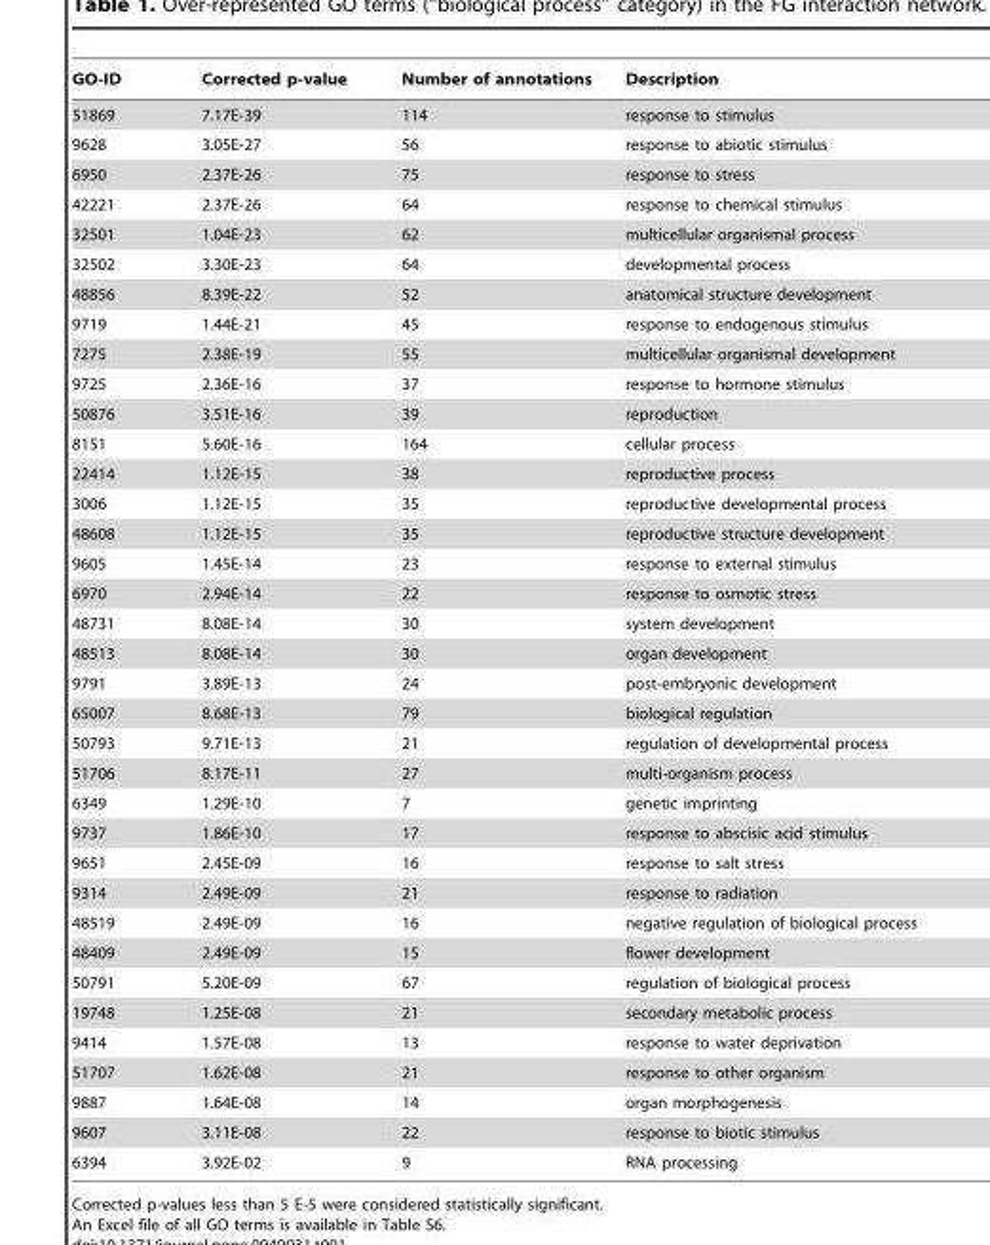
<table><thead><tr><td>GO-ID</td><td>Corrected p-value</td><td>Number of annotations</td><td>Description</td></tr></thead><tbody><tr><td>51869</td><td>7.17E-39</td><td>114</td><td>response to stimulus</td></tr><tr><td>9628</td><td>3.05E-27</td><td>56</td><td>response to abiotic stimulus</td></tr><tr><td>6950</td><td>2.37E-26</td><td>75</td><td>response to stress</td></tr><tr><td>42221</td><td>2.37E-26</td><td>64</td><td>response to chemical stimulus</td></tr><tr><td>32501</td><td>1.04E-23</td><td>62</td><td>multicellular organismal process</td></tr><tr><td>32502</td><td>3.30E-23</td><td>64</td><td>developmental process</td></tr><tr><td>48856</td><td>8.39E-22</td><td>52</td><td>anatomical structure development</td></tr><tr><td>9719</td><td>1.44E-21</td><td>45</td><td>response to endogenous stimulus</td></tr><tr><td>7275</td><td>2.38E-19</td><td>55</td><td>multicellular organismal development</td></tr><tr><td>9725</td><td>2.36E-16</td><td>37</td><td>response to hormone stimulus</td></tr><tr><td>50876</td><td>3.51E-16</td><td>39</td><td>reproduction</td></tr><tr><td>8151</td><td>5.60E-16</td><td>164</td><td>cellular process</td></tr><tr><td>22414</td><td>1.12E-15</td><td>38</td><td>reproductive process</td></tr><tr><td>3006</td><td>1.12E-15</td><td>35</td><td>reproductive developmental process</td></tr><tr><td>48608</td><td>1.12E-15</td><td>35</td><td>reproductive structure development</td></tr><tr><td>9605</td><td>1.45E-14</td><td>23</td><td>response to external stimulus</td></tr><tr><td>6970</td><td>2.94E-14</td><td>22</td><td>response to osmotic stress</td></tr><tr><td>48731</td><td>8.08E-14</td><td>30</td><td>system development</td></tr><tr><td>48513</td><td>8.08E-14</td><td>30</td><td>organ development</td></tr><tr><td>9791</td><td>3.89E-13</td><td>24</td><td>post-embryonic development</td></tr><tr><td>65007</td><td>8.68E-13</td><td>79</td><td>biological regulation</td></tr><tr><td>50793</td><td>9.71E-13</td><td>21</td><td>regulation of developmental process</td></tr><tr><td>51706</td><td>8.17E-11</td><td>27</td><td>multi-organism process</td></tr><tr><td>6349</td><td>1.29E-10</td><td>7</td><td>genetic imprinting</td></tr><tr><td>9737</td><td>1.86E-10</td><td>17</td><td>response to abscisic acid stimulus</td></tr><tr><td>9651</td><td>2.45E-09</td><td>16</td><td>response to salt stress</td></tr><tr><td>9314</td><td>2.49E-09</td><td>21</td><td>response to radiation</td></tr><tr><td>48519</td><td>2.49E-09</td><td>16</td><td>negative regulation of biological process</td></tr><tr><td>48409</td><td>2.49E-09</td><td>15</td><td>flower development</td></tr><tr><td>50791</td><td>5.20E-09</td><td>67</td><td>regulation of biological process</td></tr><tr><td>19748</td><td>1.25E-08</td><td>21</td><td>secondary metabolic process</td></tr><tr><td>9414</td><td>1.57E-08</td><td>13</td><td>response to water deprivation</td></tr><tr><td>51707</td><td>1.62E-08</td><td>21</td><td>response to other organism</td></tr><tr><td>9887</td><td>1.64E-08</td><td>14</td><td>organ morphogenesis</td></tr><tr><td>9607</td><td>3.11E-08</td><td>22</td><td>response to biotic stimulus</td></tr><tr><td>6394</td><td>3.92E-02</td><td>9</td><td>RNA processing</td></tr></tbody></table>